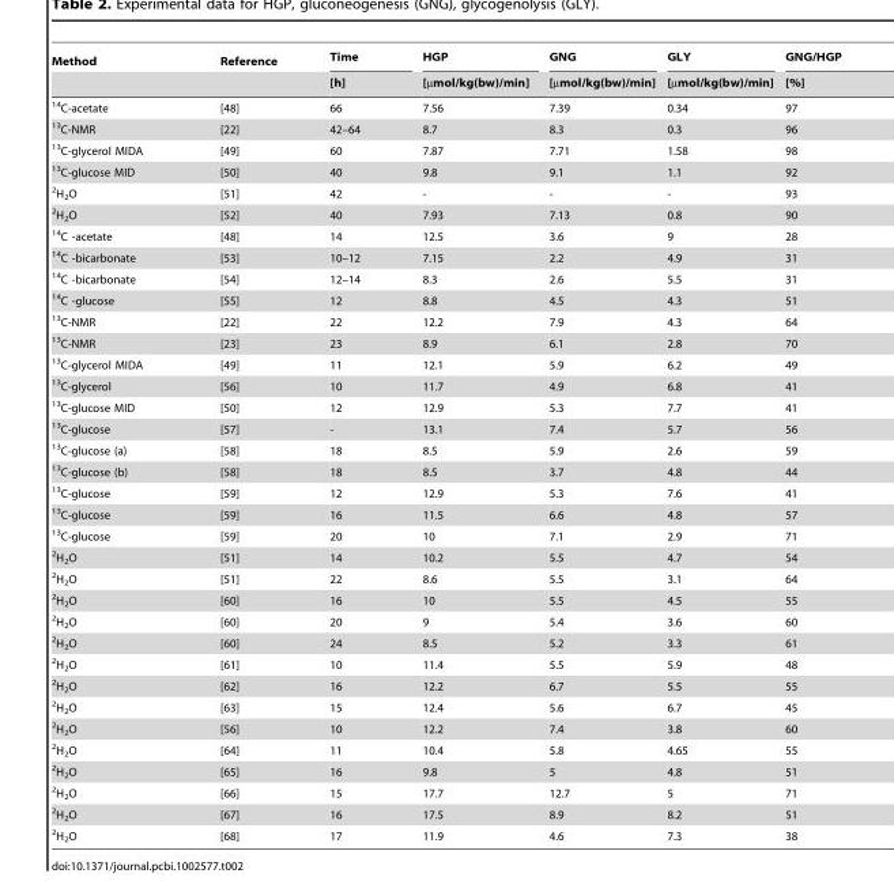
<table><thead><tr><td rowspan="2">Method</td><td rowspan="2">Reference</td><td rowspan="2">Time [h]</td><td rowspan="2">HGP [µmol/kg(bw)/min]</td><td rowspan="2">GNG [µmol/kg(bw)/min]</td><td rowspan="2">GLY [µmol/kg(bw)/min]</td><td rowspan="2">GNG/HGP [%]</td></tr><tr></tr></thead><tbody><tr><td><sup>14</sup>C-acetate</td><td>[48]</td><td>66</td><td>7.56</td><td>7.39</td><td>0.34</td><td>97</td></tr><tr><td><sup>13</sup>C-NMR</td><td>[22]</td><td>42–64</td><td>8.7</td><td>8.3</td><td>0.3</td><td>96</td></tr><tr><td><sup>13</sup>C-glycerol MIDA</td><td>[49]</td><td>60</td><td>7.87</td><td>7.71</td><td>1.58</td><td>98</td></tr><tr><td><sup>13</sup>C-glucose MID</td><td>[50]</td><td>40</td><td>9.8</td><td>9.1</td><td>1.1</td><td>92</td></tr><tr><td><sup>2</sup>H<sub>2</sub>O</td><td>[51]</td><td>42</td><td>-</td><td>-</td><td>-</td><td>93</td></tr><tr><td><sup>2</sup>H<sub>2</sub>O</td><td>[52]</td><td>40</td><td>7.93</td><td>7.13</td><td>0.8</td><td>90</td></tr><tr><td><sup>14</sup>C -acetate</td><td>[48]</td><td>14</td><td>12.5</td><td>3.6</td><td>9</td><td>28</td></tr><tr><td><sup>14</sup>C -bicarbonate</td><td>[53]</td><td>10–12</td><td>7.15</td><td>2.2</td><td>4.9</td><td>31</td></tr><tr><td><sup>14</sup>C -bicarbonate</td><td>[54]</td><td>12–14</td><td>8.3</td><td>2.6</td><td>5.5</td><td>31</td></tr><tr><td><sup>14</sup>C -glucose</td><td>[55]</td><td>12</td><td>8.8</td><td>4.5</td><td>4.3</td><td>51</td></tr><tr><td><sup>13</sup>C-NMR</td><td>[22]</td><td>22</td><td>12.2</td><td>7.9</td><td>4.3</td><td>64</td></tr><tr><td><sup>13</sup>C-NMR</td><td>[23]</td><td>23</td><td>8.9</td><td>6.1</td><td>2.8</td><td>70</td></tr><tr><td><sup>13</sup>C-glycerol MIDA</td><td>[49]</td><td>11</td><td>12.1</td><td>5.9</td><td>6.2</td><td>49</td></tr><tr><td><sup>13</sup>C-glycerol</td><td>[56]</td><td>10</td><td>11.7</td><td>4.9</td><td>6.8</td><td>41</td></tr><tr><td><sup>13</sup>C-glucose MID</td><td>[50]</td><td>12</td><td>12.9</td><td>5.3</td><td>7.7</td><td>41</td></tr><tr><td><sup>13</sup>C-glucose</td><td>[57]</td><td>-</td><td>13.1</td><td>7.4</td><td>5.7</td><td>56</td></tr><tr><td><sup>13</sup>C-glucose (a)</td><td>[58]</td><td>18</td><td>8.5</td><td>5.9</td><td>2.6</td><td>59</td></tr><tr><td><sup>13</sup>C-glucose (b)</td><td>[58]</td><td>18</td><td>8.5</td><td>3.7</td><td>4.8</td><td>44</td></tr><tr><td><sup>13</sup>C-glucose</td><td>[59]</td><td>12</td><td>12.9</td><td>5.3</td><td>7.6</td><td>41</td></tr><tr><td><sup>13</sup>C-glucose</td><td>[59]</td><td>16</td><td>11.5</td><td>6.6</td><td>4.8</td><td>57</td></tr><tr><td><sup>13</sup>C-glucose</td><td>[59]</td><td>20</td><td>10</td><td>7.1</td><td>2.9</td><td>71</td></tr><tr><td><sup>2</sup>H<sub>2</sub>O</td><td>[51]</td><td>14</td><td>10.2</td><td>5.5</td><td>4.7</td><td>54</td></tr><tr><td><sup>2</sup>H<sub>2</sub>O</td><td>[51]</td><td>22</td><td>8.6</td><td>5.5</td><td>3.1</td><td>64</td></tr><tr><td><sup>2</sup>H<sub>2</sub>O</td><td>[60]</td><td>16</td><td>10</td><td>5.5</td><td>4.5</td><td>55</td></tr><tr><td><sup>2</sup>H<sub>2</sub>O</td><td>[60]</td><td>20</td><td>9</td><td>5.4</td><td>3.6</td><td>60</td></tr><tr><td><sup>2</sup>H<sub>2</sub>O</td><td>[60]</td><td>24</td><td>8.5</td><td>5.2</td><td>3.3</td><td>61</td></tr><tr><td><sup>2</sup>H<sub>2</sub>O</td><td>[61]</td><td>10</td><td>11.4</td><td>5.5</td><td>5.9</td><td>48</td></tr><tr><td><sup>2</sup>H<sub>2</sub>O</td><td>[62]</td><td>16</td><td>12.2</td><td>6.7</td><td>5.5</td><td>55</td></tr><tr><td><sup>2</sup>H<sub>2</sub>O</td><td>[63]</td><td>15</td><td>12.4</td><td>5.6</td><td>6.7</td><td>45</td></tr><tr><td><sup>2</sup>H<sub>2</sub>O</td><td>[56]</td><td>10</td><td>12.2</td><td>7.4</td><td>3.8</td><td>60</td></tr><tr><td><sup>2</sup>H<sub>2</sub>O</td><td>[64]</td><td>11</td><td>10.4</td><td>5.8</td><td>4.65</td><td>55</td></tr><tr><td><sup>2</sup>H<sub>2</sub>O</td><td>[65]</td><td>16</td><td>9.8</td><td>5</td><td>4.8</td><td>51</td></tr><tr><td><sup>2</sup>H<sub>2</sub>O</td><td>[66]</td><td>15</td><td>17.7</td><td>12.7</td><td>5</td><td>71</td></tr><tr><td><sup>2</sup>H<sub>2</sub>O</td><td>[67]</td><td>16</td><td>17.5</td><td>8.9</td><td>8.2</td><td>51</td></tr><tr><td><sup>2</sup>H<sub>2</sub>O</td><td>[68]</td><td>17</td><td>11.9</td><td>4.6</td><td>7.3</td><td>38</td></tr></tbody></table>